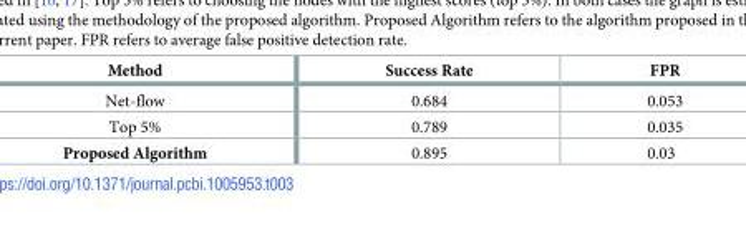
<table><thead><tr><td>Method</td><td>Success Rate</td><td>FPR</td></tr></thead><tbody><tr><td>Net-flow</td><td>0.684</td><td>0.053</td></tr><tr><td>Top 5%</td><td>0.789</td><td>0.035</td></tr><tr><td>Proposed Algorithm</td><td>0.895</td><td>0.03</td></tr></tbody></table>